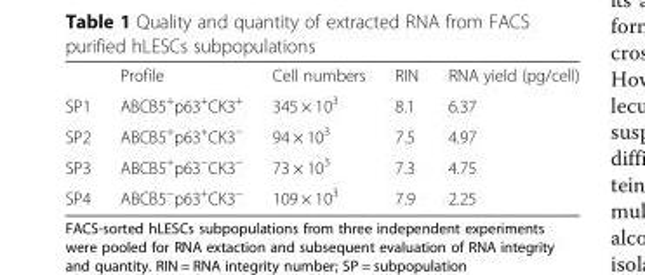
<table><thead><tr><td></td><td>Profile</td><td>Cell numbers</td><td>RIN</td><td>RNA yield (pg/cell)</td></tr></thead><tbody><tr><td>SP1</td><td>ABCB5<sup>+</sup>p63<sup>+</sup>CK3<sup>+</sup></td><td>345 × 10<sup>3</sup></td><td>8.1</td><td>6.37</td></tr><tr><td>SP2</td><td>ABCB5<sup>+</sup>p63<sup>+</sup>CK3<sup>−</sup></td><td>94 × 10<sup>3</sup></td><td>7.5</td><td>4.97</td></tr><tr><td>SP3</td><td>ABCB5<sup>+</sup>p63<sup>−</sup>CK3<sup>−</sup></td><td>73 × 10<sup>3</sup></td><td>7.3</td><td>4.75</td></tr><tr><td>SP4</td><td>ABCB5<sup>−</sup>p63<sup>+</sup>CK3<sup>−</sup></td><td>109 × 10<sup>3</sup></td><td>7.9</td><td>2.25</td></tr></tbody></table>